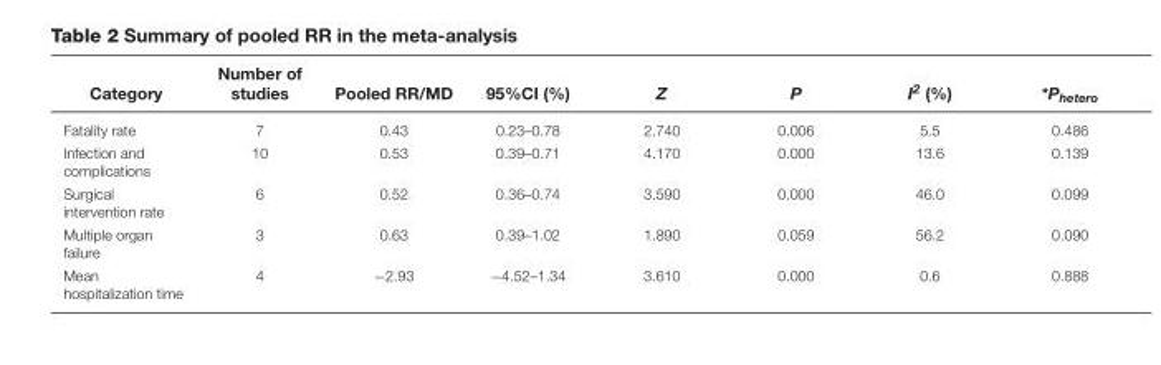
<table><thead><tr><td>Category</td><td>Number of studies</td><td>Pooled RR/MD</td><td>95%CI (%)</td><td>Z</td><td>P</td><td>I<sup>2</sup> (%)</td><td>*P<sub>hetero</sub></td></tr></thead><tbody><tr><td>Fatality rate</td><td>7</td><td>0.43</td><td>0.23–0.78</td><td>2.740</td><td>0.006</td><td>5.5</td><td>0.486</td></tr><tr><td>Infection and complications</td><td>10</td><td>0.53</td><td>0.39–0.71</td><td>4.170</td><td>0.000</td><td>13.6</td><td>0.139</td></tr><tr><td>Surgical intervention rate</td><td>6</td><td>0.52</td><td>0.36–0.74</td><td>3.590</td><td>0.000</td><td>46.0</td><td>0.099</td></tr><tr><td>Multiple organ failure</td><td>3</td><td>0.63</td><td>0.39–1.02</td><td>1.890</td><td>0.059</td><td>56.2</td><td>0.090</td></tr><tr><td>Mean hospitalization time</td><td>4</td><td>−2.93</td><td>−4.52–1.34</td><td>3.610</td><td>0.000</td><td>0.6</td><td>0.888</td></tr></tbody></table>